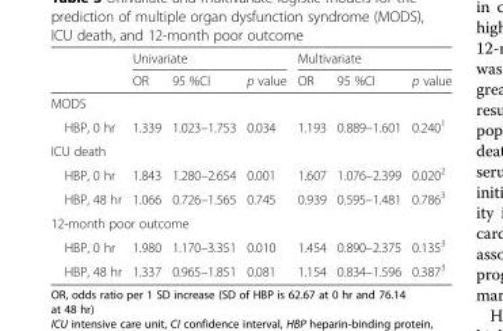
<table><thead><tr><td rowspan="2"></td><td colspan="3">Univariate</td><td colspan="3">Multivariate</td></tr><tr><td>OR</td><td>95 %CI</td><td>p value</td><td>OR</td><td>95 %CI</td><td>p value</td></tr></thead><tbody><tr><td colspan="7">MODS</td></tr><tr><td>HBP, 0 hr</td><td>1.339</td><td>1.023–1.753</td><td>0.034</td><td>1.193</td><td>0.889–1.601</td><td>0.240<sup>1</sup></td></tr><tr><td colspan="7">ICU death</td></tr><tr><td>HBP, 0 hr</td><td>1.843</td><td>1.280–2.654</td><td>0.001</td><td>1.607</td><td>1.076–2.399</td><td>0.020<sup>2</sup></td></tr><tr><td>HBP, 48 hr</td><td>1.066</td><td>0.726–1.565</td><td>0.745</td><td>0.939</td><td>0.595–1.481</td><td>0.786<sup>3</sup></td></tr><tr><td colspan="7">12-month poor outcome</td></tr><tr><td>HBP, 0 hr</td><td>1.980</td><td>1.170–3.351</td><td>0.010</td><td>1.454</td><td>0.890–2.375</td><td>0.135<sup>3</sup></td></tr><tr><td>HBP, 48 hr</td><td>1.337</td><td>0.965–1.851</td><td>0.081</td><td>1.154</td><td>0.834–1.596</td><td>0.387<sup>3</sup></td></tr></tbody></table>